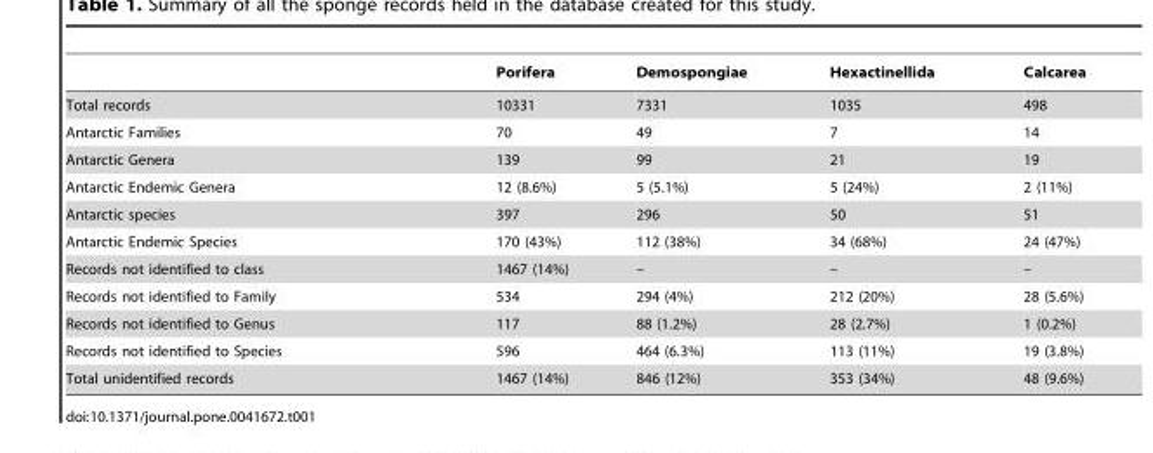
<table><thead><tr><td></td><td>Porifera</td><td>Demospongiae</td><td>Hexactinellida</td><td>Calcarea</td></tr></thead><tbody><tr><td>Total records</td><td>10331</td><td>7331</td><td>1035</td><td>498</td></tr><tr><td>Antarctic Families</td><td>70</td><td>49</td><td>7</td><td>14</td></tr><tr><td>Antarctic Genera</td><td>139</td><td>99</td><td>21</td><td>19</td></tr><tr><td>Antarctic Endemic Genera</td><td>12 (8.6%)</td><td>5 (5.1%)</td><td>5 (24%)</td><td>2 (11%)</td></tr><tr><td>Antarctic species</td><td>397</td><td>296</td><td>50</td><td>51</td></tr><tr><td>Antarctic Endemic Species</td><td>170 (43%)</td><td>112 (38%)</td><td>34 (68%)</td><td>24 (47%)</td></tr><tr><td>Records not identified to class</td><td>1467 (14%)</td><td>–</td><td>–</td><td>–</td></tr><tr><td>Records not identified to Family</td><td>534</td><td>294 (4%)</td><td>212 (20%)</td><td>28 (5.6%)</td></tr><tr><td>Records not identified to Genus</td><td>117</td><td>88 (1.2%)</td><td>28 (2.7%)</td><td>1 (0.2%)</td></tr><tr><td>Records not identified to Species</td><td>596</td><td>464 (6.3%)</td><td>113 (11%)</td><td>19 (3.8%)</td></tr><tr><td>Total unidentified records</td><td>1467 (14%)</td><td>846 (12%)</td><td>353 (34%)</td><td>48 (9.6%)</td></tr></tbody></table>